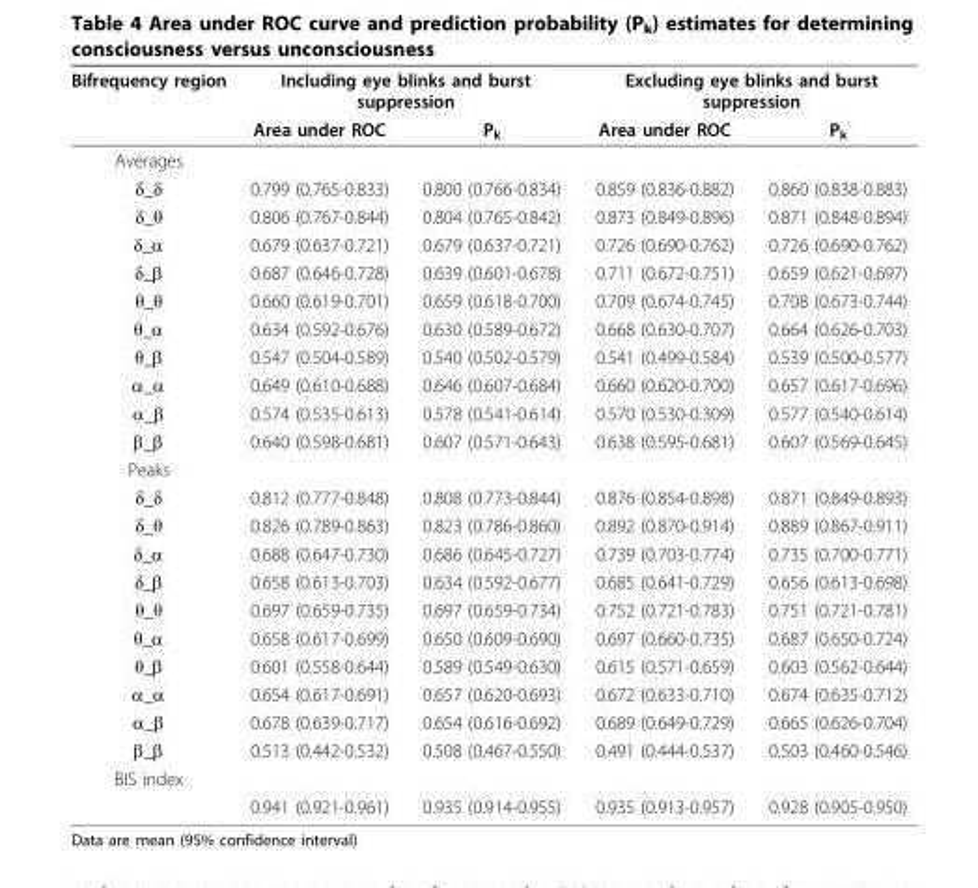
<table><thead><tr><td rowspan="2">Bifrequency region</td><td colspan="2">Including eye blinks and burst suppression</td><td colspan="2">Excluding eye blinks and burst suppression</td></tr><tr><td>Area under ROC</td><td>P<sub>k</sub></td><td>Area under ROC</td><td>P<sub>k</sub></td></tr></thead><tbody><tr><td colspan="5">Averages</td></tr><tr><td>δ_δ</td><td>0.799 (0.765-0.833)</td><td>0.800 (0.766-0.834)</td><td>0.859 (0.836-0.882)</td><td>0.860 (0.838-0.883)</td></tr><tr><td>δ_θ</td><td>0.806 (0.767-0.844)</td><td>0.804 (0.765-0.842)</td><td>0.873 (0.849-0.896)</td><td>0.871 (0.848-0.894)</td></tr><tr><td>δ_α</td><td>0.679 (0.637-0.721)</td><td>0.679 (0.637-0.721)</td><td>0.726 (0.690-0.762)</td><td>0.726 (0.690-0.762)</td></tr><tr><td>δ_β</td><td>0.687 (0.646-0.728)</td><td>0.639 (0.601-0.678)</td><td>0.711 (0.672-0.751)</td><td>0.659 (0.621-0.697)</td></tr><tr><td>θ_θ</td><td>0.660 (0.619-0.701)</td><td>0.659 (0.618-0.700)</td><td>0.709 (0.674-0.745)</td><td>0.708 (0.673-0.744)</td></tr><tr><td>θ_α</td><td>0.634 (0.592-0.676)</td><td>0.630 (0.589-0.672)</td><td>0.668 (0.630-0.707)</td><td>0.664 (0.626-0.703)</td></tr><tr><td>θ_β</td><td>0.547 (0.504-0.589)</td><td>0.540 (0.502-0.579)</td><td>0.541 (0.499-0.584)</td><td>0.539 (0.500-0.577)</td></tr><tr><td>α_α</td><td>0.649 (0.610-0.688)</td><td>0.646 (0.607-0.684)</td><td>0.660 (0.620-0.700)</td><td>0.657 (0.617-0.696)</td></tr><tr><td>α_β</td><td>0.574 (0.535-0.613)</td><td>0.578 (0.541-0.614)</td><td>0.570 (0.530-0.309)</td><td>0.577 (0.540-0.614)</td></tr><tr><td>β_β</td><td>0.640 (0.598-0.681)</td><td>0.607 (0.571-0.643)</td><td>0.638 (0.595-0.681)</td><td>0.607 (0.569-0.645)</td></tr><tr><td colspan="5">Peaks</td></tr><tr><td>δ_δ</td><td>0.812 (0.777-0.848)</td><td>0.808 (0.773-0.844)</td><td>0.876 (0.854-0.898)</td><td>0.871 (0.849-0.893)</td></tr><tr><td>δ_θ</td><td>0.826 (0.789-0.863)</td><td>0.823 (0.786-0.860)</td><td>0.892 (0.870-0.914)</td><td>0.889 (0.867-0.911)</td></tr><tr><td>δ_α</td><td>0.688 (0.647-0.730)</td><td>0.686 (0.645-0.727)</td><td>0.739 (0.703-0.774)</td><td>0.735 (0.700-0.771)</td></tr><tr><td>δ_β</td><td>0.658 (0.613-0.703)</td><td>0.634 (0.592-0.677)</td><td>0.685 (0.641-0.729)</td><td>0.656 (0.613-0.698)</td></tr><tr><td>θ_θ</td><td>0.697 (0.659-0.735)</td><td>0.697 (0.659-0.734)</td><td>0.752 (0.721-0.783)</td><td>0.751 (0.721-0.781)</td></tr><tr><td>θ_α</td><td>0.658 (0.617-0.699)</td><td>0.650 (0.609-0.690)</td><td>0.697 (0.660-0.735)</td><td>0.687 (0.650-0.724)</td></tr><tr><td>θ_β</td><td>0.601 (0.558-0.644)</td><td>0.589 (0.549-0.630)</td><td>0.615 (0.571-0.659)</td><td>0.603 (0.562-0.644)</td></tr><tr><td>α_α</td><td>0.654 (0.617-0.691)</td><td>0.657 (0.620-0.693)</td><td>0.672 (0.633-0.710)</td><td>0.674 (0.635-0.712)</td></tr><tr><td>α_β</td><td>0.678 (0.639-0.717)</td><td>0.654 (0.616-0.692)</td><td>0.689 (0.649-0.729)</td><td>0.665 (0.626-0.704)</td></tr><tr><td>β_β</td><td>0.513 (0.442-0.532)</td><td>0.508 (0.467-0.550)</td><td>0.491 (0.444-0.537)</td><td>0.503 (0.460-0.546)</td></tr><tr><td colspan="5">BIS index</td></tr><tr><td></td><td>0.941 (0.921-0.961)</td><td>0.935 (0.914-0.955)</td><td>0.935 (0.913-0.957)</td><td>0.928 (0.905-0.950)</td></tr></tbody></table>